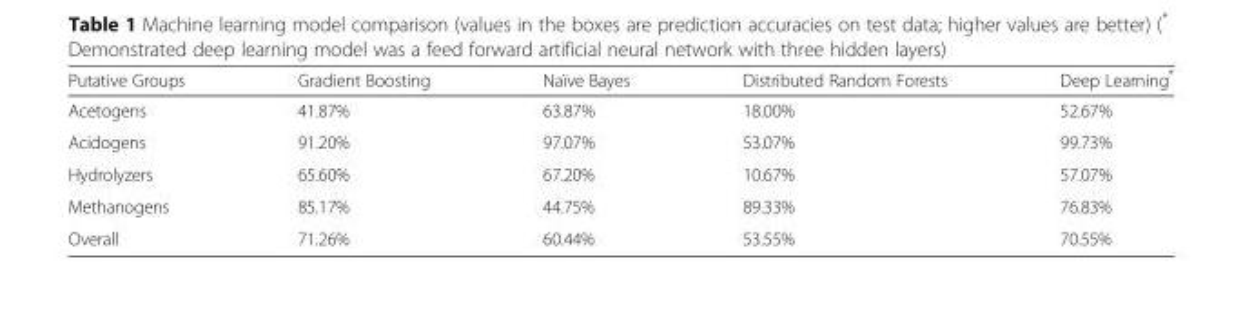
<table><thead><tr><td>Putative Groups</td><td>Gradient Boosting</td><td>Naïve Bayes</td><td>Distributed Random Forests</td><td>Deep Learning*</td></tr></thead><tbody><tr><td>Acetogens</td><td>41.87%</td><td>63.87%</td><td>18.00%</td><td>52.67%</td></tr><tr><td>Acidogens</td><td>91.20%</td><td>97.07%</td><td>53.07%</td><td>99.73%</td></tr><tr><td>Hydrolyzers</td><td>65.60%</td><td>67.20%</td><td>10.67%</td><td>57.07%</td></tr><tr><td>Methanogens</td><td>85.17%</td><td>44.75%</td><td>89.33%</td><td>76.83%</td></tr><tr><td>Overall</td><td>71.26%</td><td>60.44%</td><td>53.55%</td><td>70.55%</td></tr></tbody></table>